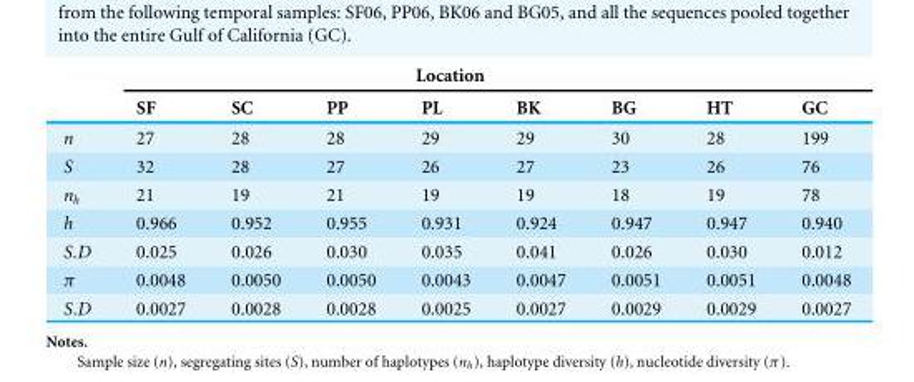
<table><thead><tr><td rowspan="2"></td><td colspan="7">Location</td><td rowspan="2">GC</td></tr><tr><td>SF</td><td>SC</td><td>PP</td><td>PL</td><td>BK</td><td>BG</td><td>HT</td></tr></thead><tbody><tr><td>n</td><td>27</td><td>28</td><td>28</td><td>29</td><td>29</td><td>30</td><td>28</td><td>199</td></tr><tr><td>S</td><td>32</td><td>28</td><td>27</td><td>26</td><td>27</td><td>23</td><td>26</td><td>76</td></tr><tr><td>n<sub>h</sub></td><td>21</td><td>19</td><td>21</td><td>19</td><td>19</td><td>18</td><td>19</td><td>78</td></tr><tr><td>h</td><td>0.966</td><td>0.952</td><td>0.955</td><td>0.931</td><td>0.924</td><td>0.947</td><td>0.947</td><td>0.940</td></tr><tr><td>S.D</td><td>0.025</td><td>0.026</td><td>0.030</td><td>0.035</td><td>0.041</td><td>0.026</td><td>0.030</td><td>0.012</td></tr><tr><td>π</td><td>0.0048</td><td>0.0050</td><td>0.0050</td><td>0.0043</td><td>0.0047</td><td>0.0051</td><td>0.0051</td><td>0.0048</td></tr><tr><td>S.D</td><td>0.0027</td><td>0.0028</td><td>0.0028</td><td>0.0025</td><td>0.0027</td><td>0.0029</td><td>0.0029</td><td>0.0027</td></tr></tbody></table>